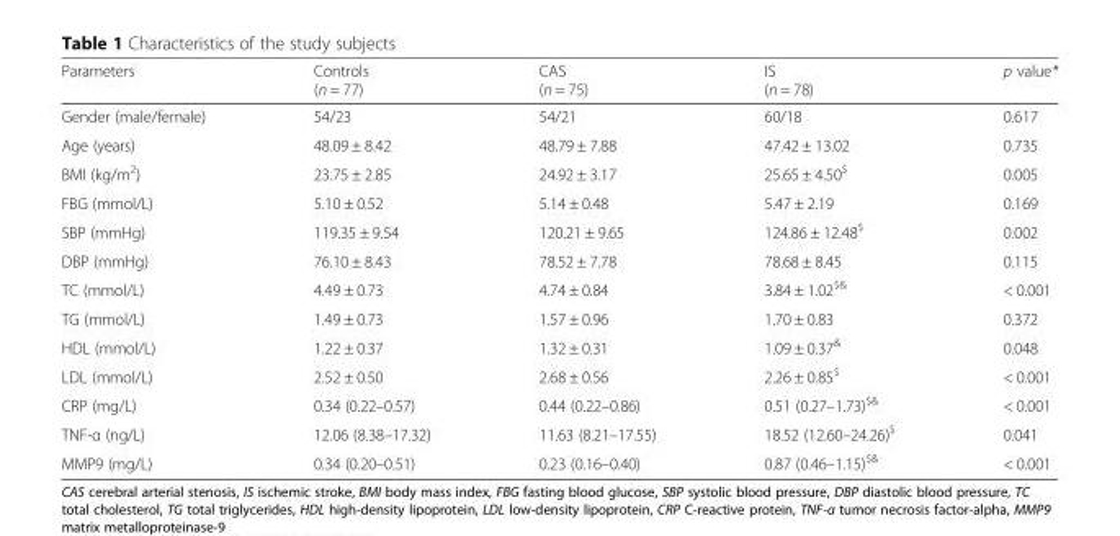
<table><thead><tr><td>Parameters</td><td>Controls (n = 77)</td><td>CAS (n = 75)</td><td>IS (n = 78)</td><td>p value*</td></tr></thead><tbody><tr><td>Gender (male/female)</td><td>54/23</td><td>54/21</td><td>60/18</td><td>0.617</td></tr><tr><td>Age (years)</td><td>48.09 ± 8.42</td><td>48.79 ± 7.88</td><td>47.42 ± 13.02</td><td>0.735</td></tr><tr><td>BMI (kg/m<sup>2</sup>)</td><td>23.75 ± 2.85</td><td>24.92 ± 3.17</td><td>25.65 ± 4.50<sup>$</sup></td><td>0.005</td></tr><tr><td>FBG (mmol/L)</td><td>5.10 ± 0.52</td><td>5.14 ± 0.48</td><td>5.47 ± 2.19</td><td>0.169</td></tr><tr><td>SBP (mmHg)</td><td>119.35 ± 9.54</td><td>120.21 ± 9.65</td><td>124.86 ± 12.48<sup>$</sup></td><td>0.002</td></tr><tr><td>DBP (mmHg)</td><td>76.10 ± 8.43</td><td>78.52 ± 7.78</td><td>78.68 ± 8.45</td><td>0.115</td></tr><tr><td>TC (mmol/L)</td><td>4.49 ± 0.73</td><td>4.74 ± 0.84</td><td>3.84 ± 1.02<sup>$&amp;</sup></td><td>&lt; 0.001</td></tr><tr><td>TG (mmol/L)</td><td>1.49 ± 0.73</td><td>1.57 ± 0.96</td><td>1.70 ± 0.83</td><td>0.372</td></tr><tr><td>HDL (mmol/L)</td><td>1.22 ± 0.37</td><td>1.32 ± 0.31</td><td>1.09 ± 0.37<sup>&amp;</sup></td><td>0.048</td></tr><tr><td>LDL (mmol/L)</td><td>2.52 ± 0.50</td><td>2.68 ± 0.56</td><td>2.26 ± 0.85<sup>$</sup></td><td>&lt; 0.001</td></tr><tr><td>CRP (mg/L)</td><td>0.34 (0.22–0.57)</td><td>0.44 (0.22–0.86)</td><td>0.51 (0.27–1.73)<sup>$&amp;</sup></td><td>&lt; 0.001</td></tr><tr><td>TNF-α (ng/L)</td><td>12.06 (8.38–17.32)</td><td>11.63 (8.21–17.55)</td><td>18.52 (12.60–24.26)<sup>$</sup></td><td>0.041</td></tr><tr><td>MMP9 (mg/L)</td><td>0.34 (0.20–0.51)</td><td>0.23 (0.16–0.40)</td><td>0.87 (0.46–1.15)<sup>$&amp;</sup></td><td>&lt; 0.001</td></tr></tbody></table>